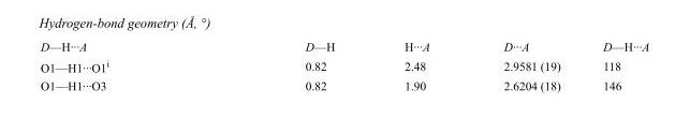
<table><tbody><tr><td>D—H···A</td><td>D—H</td><td>H···A</td><td>D···A</td><td>D—H···A</td></tr><tr><td>O1—H1···O1<sup>i</sup></td><td>0.82</td><td>2.48</td><td>2.9581 (19)</td><td>118</td></tr><tr><td>O1—H1···O3</td><td>0.82</td><td>1.90</td><td>2.6204 (18)</td><td>146</td></tr></tbody></table>